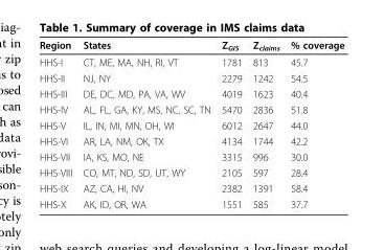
<table><thead><tr><td>Region</td><td>States</td><td>Z<sub>GIS</sub></td><td>Z<sub>claims</sub></td><td>% coverage</td></tr></thead><tbody><tr><td>HHS-I</td><td>CT, ME, MA, NH, RI, VT</td><td>1781</td><td>813</td><td>45.7</td></tr><tr><td>HHS-II</td><td>NJ, NY</td><td>2279</td><td>1242</td><td>54.5</td></tr><tr><td>HHS-III</td><td>DE, DC, MD, PA, VA, WV</td><td>4019</td><td>1623</td><td>40.4</td></tr><tr><td>HHS-IV</td><td>AL, FL, GA, KY, MS, NC, SC, TN</td><td>5470</td><td>2836</td><td>51.8</td></tr><tr><td>HHS-V</td><td>IL, IN, MI, MN, OH, WI</td><td>6012</td><td>2647</td><td>44.0</td></tr><tr><td>HHS-VI</td><td>AR, LA, NM, OK, TX</td><td>4134</td><td>1744</td><td>42.2</td></tr><tr><td>HHS-VII</td><td>IA, KS, MO, NE</td><td>3315</td><td>996</td><td>30.0</td></tr><tr><td>HHS-VIII</td><td>CO, MT, ND, SD, UT, WY</td><td>2105</td><td>597</td><td>28.4</td></tr><tr><td>HHS-IX</td><td>AZ, CA, HI, NV</td><td>2382</td><td>1391</td><td>58.4</td></tr><tr><td>HHS-X</td><td>AK, ID, OR, WA</td><td>1551</td><td>585</td><td>37.7</td></tr></tbody></table>